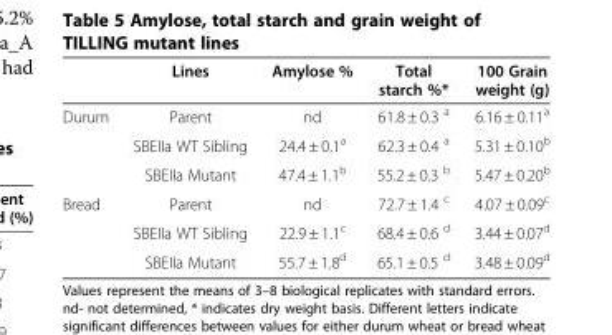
<table><thead><tr><td></td><td>Lines</td><td>Amylose %</td><td>Total starch %*</td><td>100 Grain weight (g)</td></tr></thead><tbody><tr><td rowspan="3">Durum</td><td>Parent</td><td>nd</td><td>61.8 ± 0.3 <sup>a</sup></td><td>6.16 ± 0.11<sup>a</sup></td></tr><tr><td>SBEIIa WT Sibling</td><td>24.4 ± 0.1<sup>a</sup></td><td>62.3 ± 0.4 <sup>a</sup></td><td>5.31 ± 0.10<sup>b</sup></td></tr><tr><td>SBEIIa Mutant</td><td>47.4 ± 1.1<sup>b</sup></td><td>55.2 ± 0.3 <sup>b</sup></td><td>5.47 ± 0.20<sup>b</sup></td></tr><tr><td rowspan="3">Bread</td><td>Parent</td><td>nd</td><td>72.7 ± 1.4 <sup>c</sup></td><td>4.07 ± 0.09<sup>c</sup></td></tr><tr><td>SBEIIa WT Sibling</td><td>22.9 ± 1.1<sup>c</sup></td><td>68.4 ± 0.6 <sup>d</sup></td><td>3.44 ± 0.07<sup>d</sup></td></tr><tr><td>SBEIIa Mutant</td><td>55.7 ± 1.8<sup>d</sup></td><td>65.1 ± 0.5 <sup>d</sup></td><td>3.48 ± 0.09<sup>d</sup></td></tr></tbody></table>